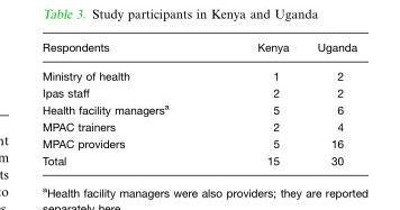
<table><thead><tr><td>Respondents</td><td>Kenya</td><td>Uganda</td></tr></thead><tbody><tr><td>Ministry of health</td><td>1</td><td>2</td></tr><tr><td>Ipas staff</td><td>2</td><td>2</td></tr><tr><td>Health facility managers<sup>a</sup></td><td>5</td><td>6</td></tr><tr><td>MPAC trainers</td><td>2</td><td>4</td></tr><tr><td>MPAC providers</td><td>5</td><td>16</td></tr><tr><td>Total</td><td>15</td><td>30</td></tr></tbody></table>